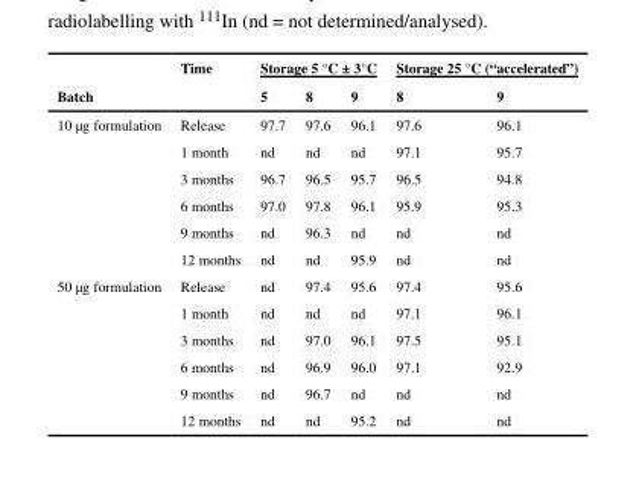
<table><thead><tr><td rowspan="2">Batch</td><td rowspan="2">Time</td><td colspan="3">Storage 5 °C ± 3°C</td><td colspan="2">Storage 25 °C (“accelerated”)</td></tr><tr><td>5</td><td>8</td><td>9</td><td>8</td><td>9</td></tr></thead><tbody><tr><td rowspan="6">10 μg formulation</td><td>Release</td><td>97.7</td><td>97.6</td><td>96.1</td><td>97.6</td><td>96.1</td></tr><tr><td>1 month</td><td>nd</td><td>nd</td><td>nd</td><td>97.1</td><td>95.7</td></tr><tr><td>3 months</td><td>96.7</td><td>96.5</td><td>95.7</td><td>96.5</td><td>94.8</td></tr><tr><td>6 months</td><td>97.0</td><td>97.8</td><td>96.1</td><td>95.9</td><td>95.3</td></tr><tr><td>9 months</td><td>nd</td><td>96.3</td><td>nd</td><td>nd</td><td>nd</td></tr><tr><td>12 months</td><td>nd</td><td>nd</td><td>95.9</td><td>nd</td><td>nd</td></tr><tr><td rowspan="6">50 μg formulation</td><td>Release</td><td>nd</td><td>97.4</td><td>95.6</td><td>97.4</td><td>95.6</td></tr><tr><td>1 month</td><td>nd</td><td>nd</td><td>nd</td><td>97.1</td><td>96.1</td></tr><tr><td>3 months</td><td>nd</td><td>97.0</td><td>96.1</td><td>97.5</td><td>95.1</td></tr><tr><td>6 months</td><td>nd</td><td>96.9</td><td>96.0</td><td>97.1</td><td>92.9</td></tr><tr><td>9 months</td><td>nd</td><td>96.7</td><td>nd</td><td>nd</td><td>nd</td></tr><tr><td>12 months</td><td>nd</td><td>nd</td><td>95.2</td><td>nd</td><td>nd</td></tr></tbody></table>